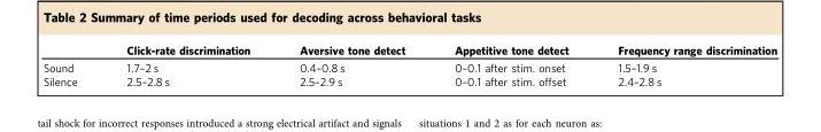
<table><thead><tr><td></td><td>Click-rate discrimination</td><td>Aversive tone detect</td><td>Appetitive tone detect</td><td>Frequency range discrimination</td></tr></thead><tbody><tr><td>Sound</td><td>1.7–2 s</td><td>0.4–0.8 s</td><td>0–0.1 after stim. onset</td><td>1.5–1.9 s</td></tr><tr><td>Silence</td><td>2.5–2.8 s</td><td>2.5–2.9 s</td><td>0–0.1 after stim. offset</td><td>2.4–2.8 s</td></tr></tbody></table>